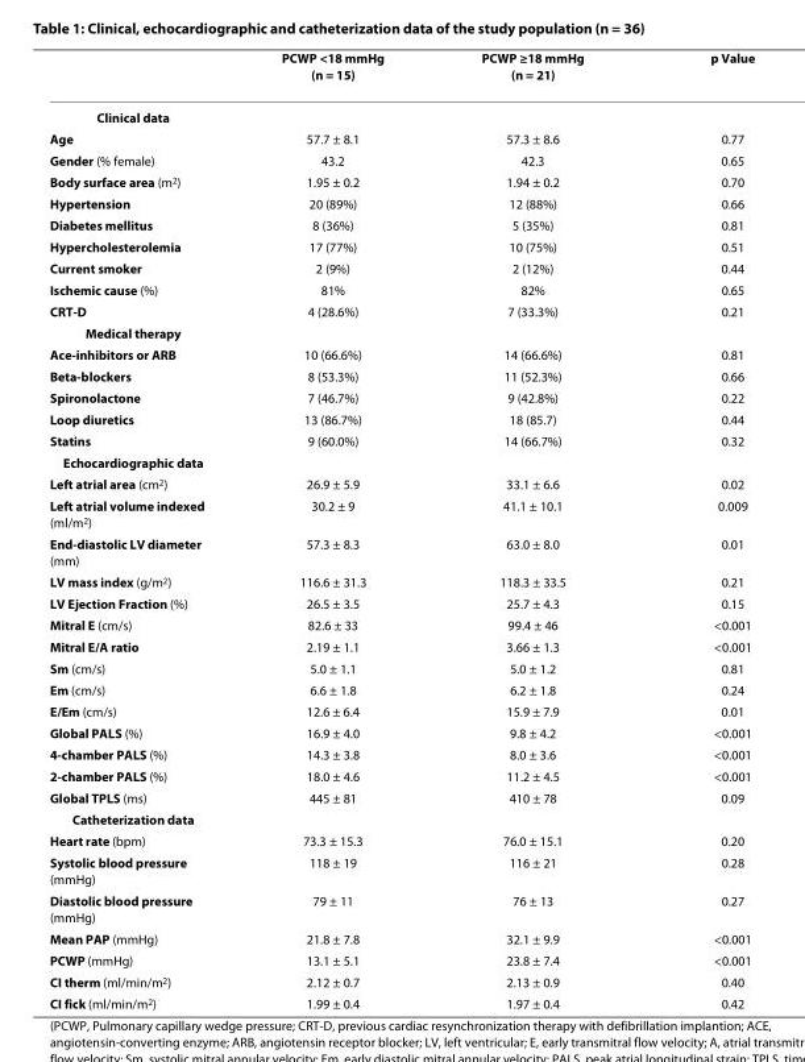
<table><thead><tr><td></td><td>PCWP &lt;18 mmHg (n = 15)</td><td>PCWP ≥18 mmHg (n = 21)</td><td>p Value</td></tr></thead><tbody><tr><td colspan="4">Clinical data</td></tr><tr><td>Age</td><td>57.7 ± 8.1</td><td>57.3 ± 8.6</td><td>0.77</td></tr><tr><td>Gender (% female)</td><td>43.2</td><td>42.3</td><td>0.65</td></tr><tr><td>Body surface area (m<sup>2</sup>)</td><td>1.95 ± 0.2</td><td>1.94 ± 0.2</td><td>0.70</td></tr><tr><td>Hypertension</td><td>20 (89%)</td><td>12 (88%)</td><td>0.66</td></tr><tr><td>Diabetes mellitus</td><td>8 (36%)</td><td>5 (35%)</td><td>0.81</td></tr><tr><td>Hypercholesterolemia</td><td>17 (77%)</td><td>10 (75%)</td><td>0.51</td></tr><tr><td>Current smoker</td><td>2 (9%)</td><td>2 (12%)</td><td>0.44</td></tr><tr><td>Ischemic cause (%)</td><td>81%</td><td>82%</td><td>0.65</td></tr><tr><td>CRT-D</td><td>4 (28.6%)</td><td>7 (33.3%)</td><td>0.21</td></tr><tr><td colspan="4">Medical therapy</td></tr><tr><td>Ace-inhibitors or ARB</td><td>10 (66.6%)</td><td>14 (66.6%)</td><td>0.81</td></tr><tr><td>Beta-blockers</td><td>8 (53.3%)</td><td>11 (52.3%)</td><td>0.66</td></tr><tr><td>Spironolactone</td><td>7 (46.7%)</td><td>9 (42.8%)</td><td>0.22</td></tr><tr><td>Loop diuretics</td><td>13 (86.7%)</td><td>18 (85.7)</td><td>0.44</td></tr><tr><td>Statins</td><td>9 (60.0%)</td><td>14 (66.7%)</td><td>0.32</td></tr><tr><td colspan="4">Echocardiographic data</td></tr><tr><td>Left atrial area (cm<sup>2</sup>)</td><td>26.9 ± 5.9</td><td>33.1 ± 6.6</td><td>0.02</td></tr><tr><td>Left atrial volume indexed (ml/m<sup>2</sup>)</td><td>30.2 ± 9</td><td>41.1 ± 10.1</td><td>0.009</td></tr><tr><td>End-diastolic LV diameter (mm)</td><td>57.3 ± 8.3</td><td>63.0 ± 8.0</td><td>0.01</td></tr><tr><td>LV mass index (g/m<sup>2</sup>)</td><td>116.6 ± 31.3</td><td>118.3 ± 33.5</td><td>0.21</td></tr><tr><td>LV Ejection Fraction (%)</td><td>26.5 ± 3.5</td><td>25.7 ± 4.3</td><td>0.15</td></tr><tr><td>Mitral E (cm/s)</td><td>82.6 ± 33</td><td>99.4 ± 46</td><td>&lt;0.001</td></tr><tr><td>Mitral E/A ratio</td><td>2.19 ± 1.1</td><td>3.66 ± 1.3</td><td>&lt;0.001</td></tr><tr><td>Sm (cm/s)</td><td>5.0 ± 1.1</td><td>5.0 ± 1.2</td><td>0.81</td></tr><tr><td>Em (cm/s)</td><td>6.6 ± 1.8</td><td>6.2 ± 1.8</td><td>0.24</td></tr><tr><td>E/Em (cm/s)</td><td>12.6 ± 6.4</td><td>15.9 ± 7.9</td><td>0.01</td></tr><tr><td>Global PALS (%)</td><td>16.9 ± 4.0</td><td>9.8 ± 4.2</td><td>&lt;0.001</td></tr><tr><td>4-chamber PALS (%)</td><td>14.3 ± 3.8</td><td>8.0 ± 3.6</td><td>&lt;0.001</td></tr><tr><td>2-chamber PALS (%)</td><td>18.0 ± 4.6</td><td>11.2 ± 4.5</td><td>&lt;0.001</td></tr><tr><td>Global TPLS (ms)</td><td>445 ± 81</td><td>410 ± 78</td><td>0.09</td></tr><tr><td colspan="4">Catheterization data</td></tr><tr><td>Heart rate (bpm)</td><td>73.3 ± 15.3</td><td>76.0 ± 15.1</td><td>0.20</td></tr><tr><td>Systolic blood pressure (mmHg)</td><td>118 ± 19</td><td>116 ± 21</td><td>0.28</td></tr><tr><td>Diastolic blood pressure (mmHg)</td><td>79 ± 11</td><td>76 ± 13</td><td>0.27</td></tr><tr><td>Mean PAP (mmHg)</td><td>21.8 ± 7.8</td><td>32.1 ± 9.9</td><td>&lt;0.001</td></tr><tr><td>PCWP (mmHg)</td><td>13.1 ± 5.1</td><td>23.8 ± 7.4</td><td>&lt;0.001</td></tr><tr><td>CI therm (ml/min/m<sup>2</sup>)</td><td>2.12 ± 0.7</td><td>2.13 ± 0.9</td><td>0.40</td></tr><tr><td>CI fick (ml/min/m<sup>2</sup>)</td><td>1.99 ± 0.4</td><td>1.97 ± 0.4</td><td>0.42</td></tr></tbody></table>